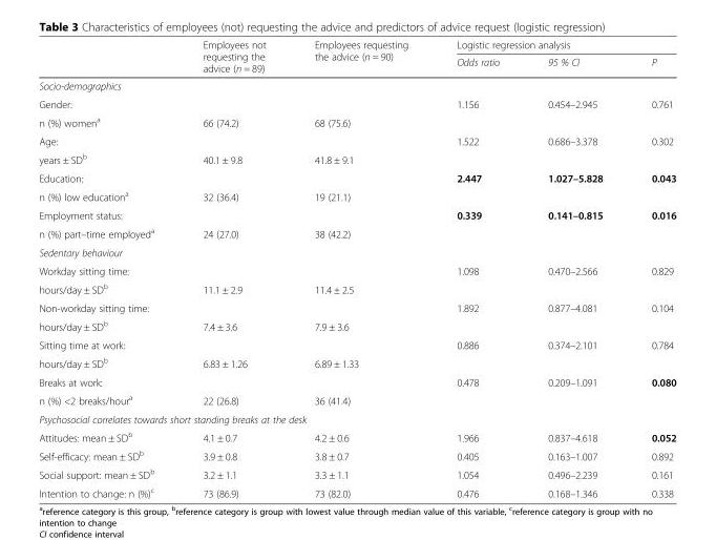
<table><thead><tr><td rowspan="2"></td><td rowspan="2">Employees not requesting the advice (n = 89)</td><td rowspan="2">Employees requesting the advice (n = 90)</td><td colspan="3">Logistic regression analysis</td></tr><tr><td>Odds ratio</td><td>95 % CI</td><td>P</td></tr></thead><tbody><tr><td colspan="6">Socio-demographics</td></tr><tr><td>Gender:</td><td></td><td></td><td>1.156</td><td>0.454–2.945</td><td>0.761</td></tr><tr><td>n (%) women<sup>a</sup></td><td>66 (74.2)</td><td>68 (75.6)</td><td></td><td></td><td></td></tr><tr><td>Age:</td><td></td><td></td><td>1.522</td><td>0.686–3.378</td><td>0.302</td></tr><tr><td>years ± SD<sup>b</sup></td><td>40.1 ± 9.8</td><td>41.8 ± 9.1</td><td></td><td></td><td></td></tr><tr><td>Education:</td><td></td><td></td><td>2.447</td><td>1.027–5.828</td><td>0.043</td></tr><tr><td>n (%) low education<sup>a</sup></td><td>32 (36.4)</td><td>19 (21.1)</td><td></td><td></td><td></td></tr><tr><td>Employment status:</td><td></td><td></td><td>0.339</td><td>0.141–0.815</td><td>0.016</td></tr><tr><td>n (%) part–time employed<sup>a</sup></td><td>24 (27.0)</td><td>38 (42.2)</td><td></td><td></td><td></td></tr><tr><td colspan="6">Sedentary behaviour</td></tr><tr><td>Workday sitting time:</td><td></td><td></td><td>1.098</td><td>0.470–2.566</td><td>0.829</td></tr><tr><td>hours/day ± SD<sup>b</sup></td><td>11.1 ± 2.9</td><td>11.4 ± 2.5</td><td></td><td></td><td></td></tr><tr><td>Non-workday sitting time:</td><td></td><td></td><td>1.892</td><td>0.877–4.081</td><td>0.104</td></tr><tr><td>hours/day ± SD<sup>b</sup></td><td>7.4 ± 3.6</td><td>7.9 ± 3.6</td><td></td><td></td><td></td></tr><tr><td>Sitting time at work:</td><td></td><td></td><td>0.886</td><td>0.374–2.101</td><td>0.784</td></tr><tr><td>hours/day ± SD<sup>b</sup></td><td>6.83 ± 1.26</td><td>6.89 ± 1.33</td><td></td><td></td><td></td></tr><tr><td>Breaks at work:</td><td></td><td></td><td>0.478</td><td>0.209–1.091</td><td>0.080</td></tr><tr><td>n (%) &lt;2 breaks/hour<sup>a</sup></td><td>22 (26.8)</td><td>36 (41.4)</td><td></td><td></td><td></td></tr><tr><td colspan="6">Psychosocial correlates towards short standing breaks at the desk</td></tr><tr><td>Attitudes: mean ± SD<sup>b</sup></td><td>4.1 ± 0.7</td><td>4.2 ± 0.6</td><td>1.966</td><td>0.837–4.618</td><td>0.052</td></tr><tr><td>Self-efficacy: mean ± SD<sup>b</sup></td><td>3.9 ± 0.8</td><td>3.8 ± 0.7</td><td>0.405</td><td>0.163–1.007</td><td>0.892</td></tr><tr><td>Social support: mean ± SD<sup>b</sup></td><td>3.2 ± 1.1</td><td>3.3 ± 1.1</td><td>1.054</td><td>0.496–2.239</td><td>0.161</td></tr><tr><td>Intention to change: n (%)<sup>c</sup></td><td>73 (86.9)</td><td>73 (82.0)</td><td>0.476</td><td>0.168–1.346</td><td>0.338</td></tr></tbody></table>